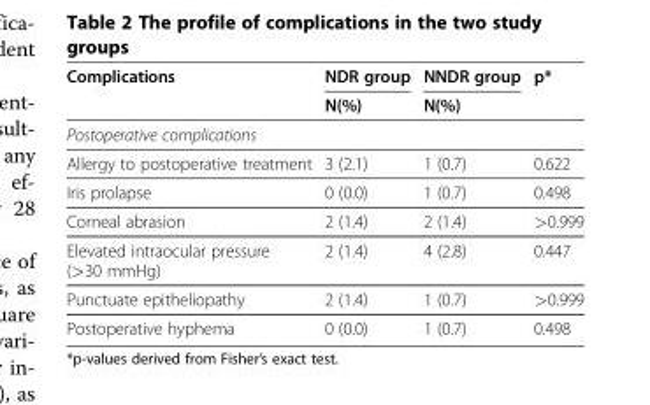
<table><thead><tr><td rowspan="2">Complications</td><td rowspan="2">NDR group N(%)</td><td rowspan="2">NNDR group N(%)</td><td rowspan="2">p*</td></tr><tr></tr></thead><tbody><tr><td colspan="4">Postoperative complications</td></tr><tr><td>Allergy to postoperative treatment</td><td>3 (2.1)</td><td>1 (0.7)</td><td>0.622</td></tr><tr><td>Iris prolapse</td><td>0 (0.0)</td><td>1 (0.7)</td><td>0.498</td></tr><tr><td>Corneal abrasion</td><td>2 (1.4)</td><td>2 (1.4)</td><td>&gt;0.999</td></tr><tr><td>Elevated intraocular pressure (&gt;30 mmHg)</td><td>2 (1.4)</td><td>4 (2.8)</td><td>0.447</td></tr><tr><td>Punctuate epitheliopathy</td><td>2 (1.4)</td><td>1 (0.7)</td><td>&gt;0.999</td></tr><tr><td>Postoperative hyphema</td><td>0 (0.0)</td><td>1 (0.7)</td><td>0.498</td></tr></tbody></table>